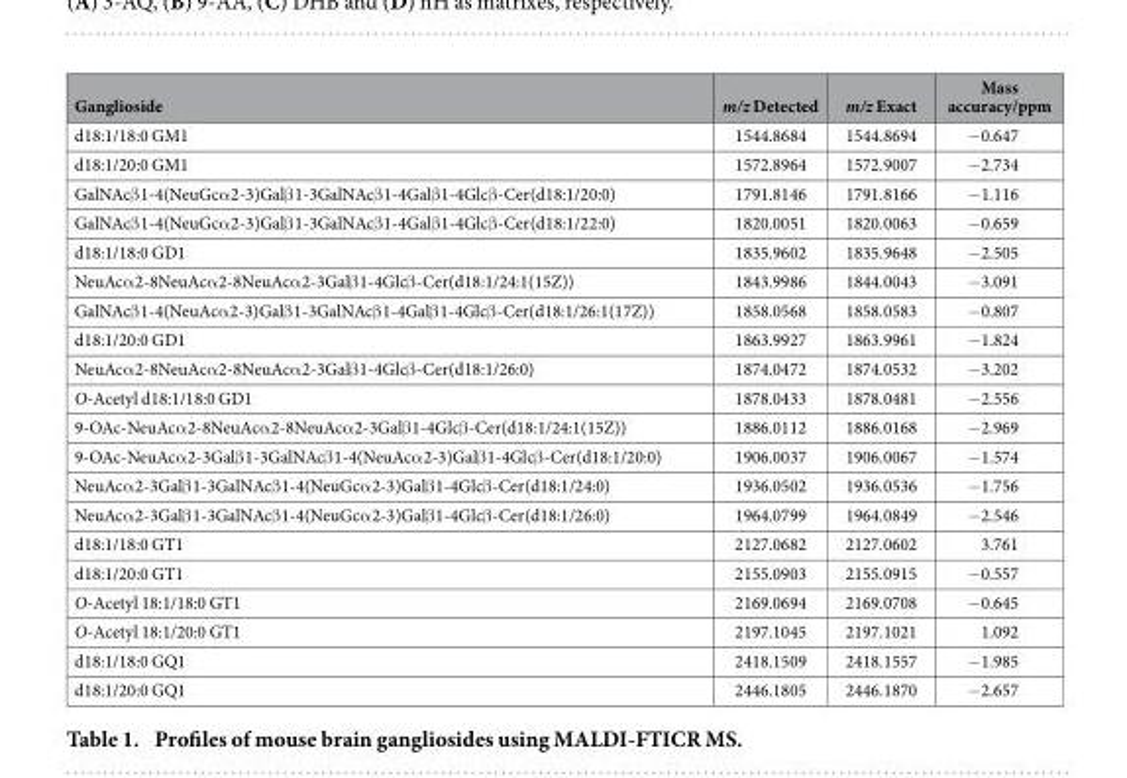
<table><thead><tr><td>Ganglioside</td><td>m/z Detected</td><td>m/z Exact</td><td>Mass accuracy/ppm</td></tr></thead><tbody><tr><td>d18:1/18:0 GM1</td><td>1544.8684</td><td>1544.8694</td><td>−0.647</td></tr><tr><td>d18:1/20:0 GM1</td><td>1572.8964</td><td>1572.9007</td><td>−2.734</td></tr><tr><td>GalNAcβ 1-4(NeuGcα 2-3)Galβ 1-3GalNAcβ 1-4Galβ 1-4Glcβ -Cer(d18:1/20:0)</td><td>1791.8146</td><td>1791.8166</td><td>−1.116</td></tr><tr><td>GalNAcβ 1-4(NeuGcα 2-3)Galβ 1-3GalNAcβ 1-4Galβ 1-4Glcβ -Cer(d18:1/22:0)</td><td>1820.0051</td><td>1820.0063</td><td>−0.659</td></tr><tr><td>d18:1/18:0 GD1</td><td>1835.9602</td><td>1835.9648</td><td>−2.505</td></tr><tr><td>NeuAcα 2-8NeuAcα 2-8NeuAcα 2-3Galβ 1-4Glcβ -Cer(d18:1/24:1(15Z))</td><td>1843.9986</td><td>1844.0043</td><td>−3.091</td></tr><tr><td>GalNAcβ 1-4(NeuAcα 2-3)Galβ 1-3GalNAcβ 1-4Galβ 1-4Glcβ -Cer(d18:1/26:1(17Z))</td><td>1858.0568</td><td>1858.0583</td><td>−0.807</td></tr><tr><td>d18:1/20:0 GD1</td><td>1863.9927</td><td>1863.9961</td><td>−1.824</td></tr><tr><td>NeuAcα 2-8NeuAcα 2-8NeuAcα 2-3Galβ 1-4Glcβ -Cer(d18:1/26:0)</td><td>1874.0472</td><td>1874.0532</td><td>−3.202</td></tr><tr><td>O-Acetyl d18:1/18:0 GD1</td><td>1878.0433</td><td>1878.0481</td><td>−2.556</td></tr><tr><td>9-OAc-NeuAcα 2-8NeuAcα 2-8NeuAcα 2-3Galβ 1-4Glcβ -Cer(d18:1/24:1(15Z))</td><td>1886.0112</td><td>1886.0168</td><td>−2.969</td></tr><tr><td>9-OAc-NeuAcα 2-3Galβ 1-3GalNAcβ 1-4(NeuAcα 2-3)Galβ 1-4Glcβ -Cer(d18:1/20:0)</td><td>1906.0037</td><td>1906.0067</td><td>−1.574</td></tr><tr><td>NeuAcα 2-3Galβ 1-3GalNAcβ 1-4(NeuGcα 2-3)Galβ 1-4Glcβ -Cer(d18:1/24:0)</td><td>1936.0502</td><td>1936.0536</td><td>−1.756</td></tr><tr><td>NeuAcα 2-3Galβ 1-3GalNAcβ 1-4(NeuGcα 2-3)Galβ 1-4Glcβ -Cer(d18:1/26:0)</td><td>1964.0799</td><td>1964.0849</td><td>−2.546</td></tr><tr><td>d18:1/18:0 GT1</td><td>2127.0682</td><td>2127.0602</td><td>3.761</td></tr><tr><td>d18:1/20:0 GT1</td><td>2155.0903</td><td>2155.0915</td><td>−0.557</td></tr><tr><td>O-Acetyl 18:1/18:0 GT1</td><td>2169.0694</td><td>2169.0708</td><td>−0.645</td></tr><tr><td>O-Acetyl 18:1/20:0 GT1</td><td>2197.1045</td><td>2197.1021</td><td>1.092</td></tr><tr><td>d18:1/18:0 GQ1</td><td>2418.1509</td><td>2418.1557</td><td>−1.985</td></tr><tr><td>d18:1/20:0 GQ1</td><td>2446.1805</td><td>2446.1870</td><td>−2.657</td></tr></tbody></table>